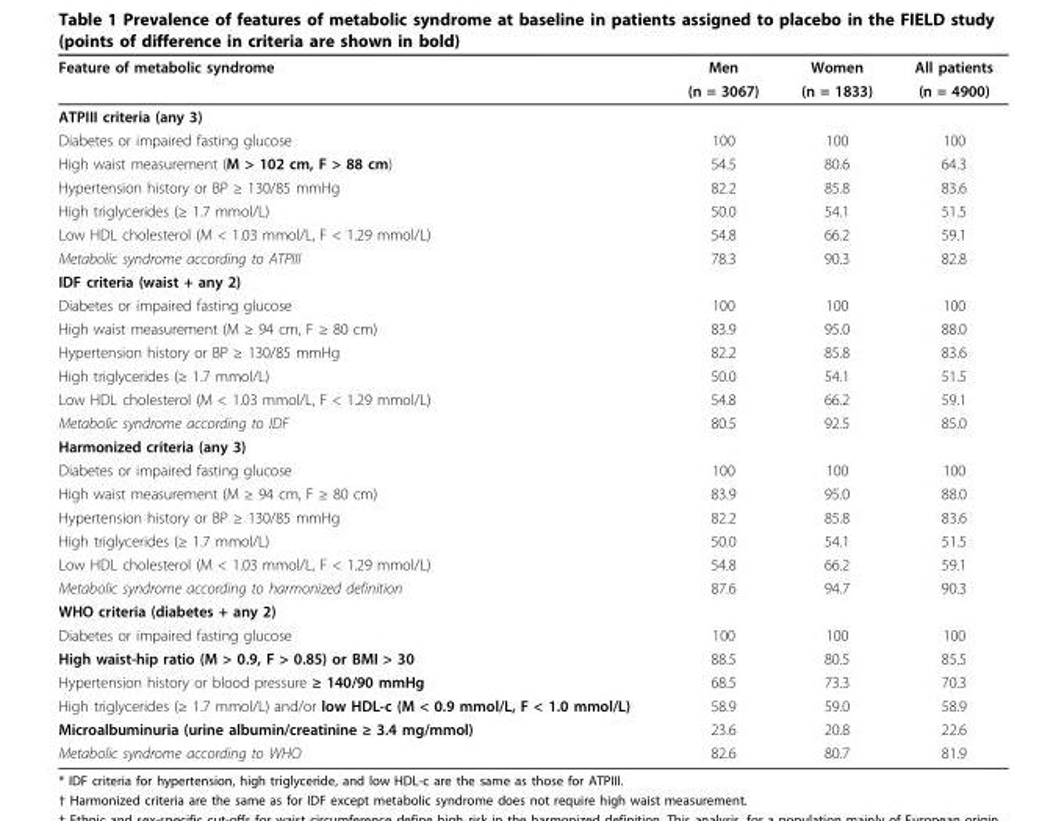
<table><thead><tr><td rowspan="2">Feature of metabolic syndrome</td><td rowspan="2">Men (n = 3067)</td><td rowspan="2">Women (n = 1833)</td><td rowspan="2">All patients (n = 4900)</td></tr><tr></tr></thead><tbody><tr><td colspan="4">ATPIII criteria (any 3)</td></tr><tr><td>Diabetes or impaired fasting glucose</td><td>100</td><td>100</td><td>100</td></tr><tr><td>High waist measurement (M &gt; 102 cm, F &gt; 88 cm)</td><td>54.5</td><td>80.6</td><td>64.3</td></tr><tr><td>Hypertension history or BP ≥ 130/85 mmHg</td><td>82.2</td><td>85.8</td><td>83.6</td></tr><tr><td>High triglycerides (≥ 1.7 mmol/L)</td><td>50.0</td><td>54.1</td><td>51.5</td></tr><tr><td>Low HDL cholesterol (M &lt; 1.03 mmol/L, F &lt; 1.29 mmol/L)</td><td>54.8</td><td>66.2</td><td>59.1</td></tr><tr><td>Metabolic syndrome according to ATPIII</td><td>78.3</td><td>90.3</td><td>82.8</td></tr><tr><td colspan="4">IDF criteria (waist + any 2)</td></tr><tr><td>Diabetes or impaired fasting glucose</td><td>100</td><td>100</td><td>100</td></tr><tr><td>High waist measurement (M ≥ 94 cm, F ≥ 80 cm)</td><td>83.9</td><td>95.0</td><td>88.0</td></tr><tr><td>Hypertension history or BP ≥ 130/85 mmHg</td><td>82.2</td><td>85.8</td><td>83.6</td></tr><tr><td>High triglycerides (≥ 1.7 mmol/L)</td><td>50.0</td><td>54.1</td><td>51.5</td></tr><tr><td>Low HDL cholesterol (M &lt; 1.03 mmol/L, F &lt; 1.29 mmol/L)</td><td>54.8</td><td>66.2</td><td>59.1</td></tr><tr><td>Metabolic syndrome according to IDF</td><td>80.5</td><td>92.5</td><td>85.0</td></tr><tr><td colspan="4">Harmonized criteria (any 3)</td></tr><tr><td>Diabetes or impaired fasting glucose</td><td>100</td><td>100</td><td>100</td></tr><tr><td>High waist measurement (M ≥ 94 cm, F ≥ 80 cm)</td><td>83.9</td><td>95.0</td><td>88.0</td></tr><tr><td>Hypertension history or BP ≥ 130/85 mmHg</td><td>82.2</td><td>85.8</td><td>83.6</td></tr><tr><td>High triglycerides (≥ 1.7 mmol/L)</td><td>50.0</td><td>54.1</td><td>51.5</td></tr><tr><td>Low HDL cholesterol (M &lt; 1.03 mmol/L, F &lt; 1.29 mmol/L)</td><td>54.8</td><td>66.2</td><td>59.1</td></tr><tr><td>Metabolic syndrome according to harmonized definition</td><td>87.6</td><td>94.7</td><td>90.3</td></tr><tr><td colspan="4">WHO criteria (diabetes + any 2)</td></tr><tr><td>Diabetes or impaired fasting glucose</td><td>100</td><td>100</td><td>100</td></tr><tr><td>High waist-hip ratio (M &gt; 0.9, F &gt; 0.85) or BMI &gt; 30</td><td>88.5</td><td>80.5</td><td>85.5</td></tr><tr><td>Hypertension history or blood pressure ≥ 140/90 mmHg</td><td>68.5</td><td>73.3</td><td>70.3</td></tr><tr><td>High triglycerides (≥ 1.7 mmol/L) and/or low HDL-c (M &lt; 0.9 mmol/L, F &lt; 1.0 mmol/L)</td><td>58.9</td><td>59.0</td><td>58.9</td></tr><tr><td>Microalbuminuria (urine albumin/creatinine ≥ 3.4 mg/mmol)</td><td>23.6</td><td>20.8</td><td>22.6</td></tr><tr><td>Metabolic syndrome according to WHO</td><td>82.6</td><td>80.7</td><td>81.9</td></tr></tbody></table>